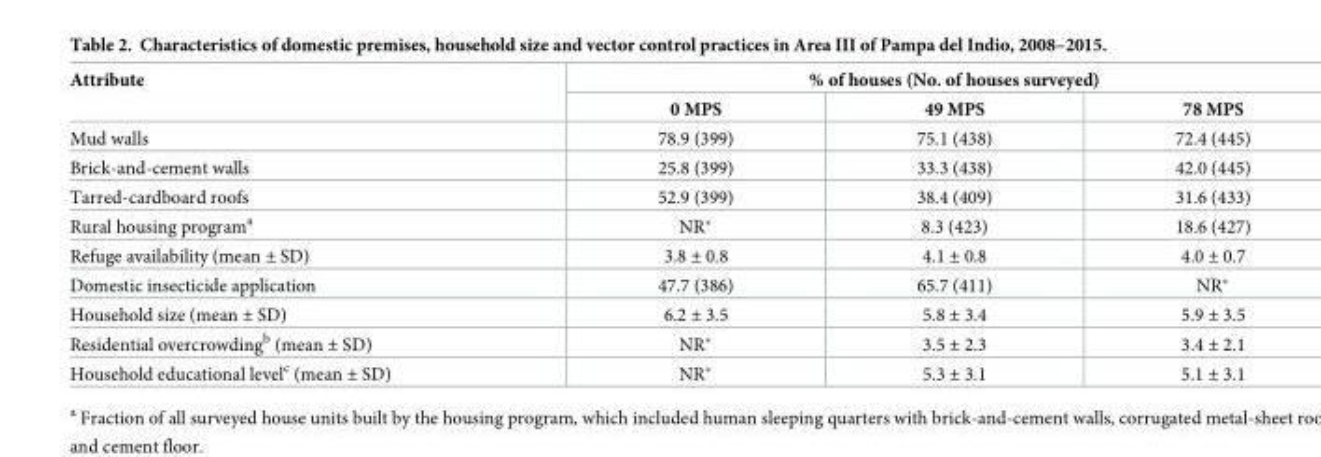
<table><thead><tr><td rowspan="2">Attribute</td><td colspan="3">% of houses (No. of houses surveyed)</td></tr><tr><td>0 MPS</td><td>49 MPS</td><td>78 MPS</td></tr></thead><tbody><tr><td>Mud walls</td><td>78.9 (399)</td><td>75.1 (438)</td><td>72.4 (445)</td></tr><tr><td>Brick-and-cement walls</td><td>25.8 (399)</td><td>33.3 (438)</td><td>42.0 (445)</td></tr><tr><td>Tarred-cardboard roofs</td><td>52.9 (399)</td><td>38.4 (409)</td><td>31.6 (433)</td></tr><tr><td>Rural housing program<sup>a</sup></td><td>NR*</td><td>8.3 (423)</td><td>18.6 (427)</td></tr><tr><td>Refuge availability (mean ± SD)</td><td>3.8 ± 0.8</td><td>4.1 ± 0.8</td><td>4.0 ± 0.7</td></tr><tr><td>Domestic insecticide application</td><td>47.7 (386)</td><td>65.7 (411)</td><td>NR*</td></tr><tr><td>Household size (mean ± SD)</td><td>6.2 ± 3.5</td><td>5.8 ± 3.4</td><td>5.9 ± 3.5</td></tr><tr><td>Residential overcrowding<sup>b</sup> (mean ± SD)</td><td>NR*</td><td>3.5 ± 2.3</td><td>3.4 ± 2.1</td></tr><tr><td>Household educational level<sup>c</sup> (mean ± SD)</td><td>NR*</td><td>5.3 ± 3.1</td><td>5.1 ± 3.1</td></tr></tbody></table>